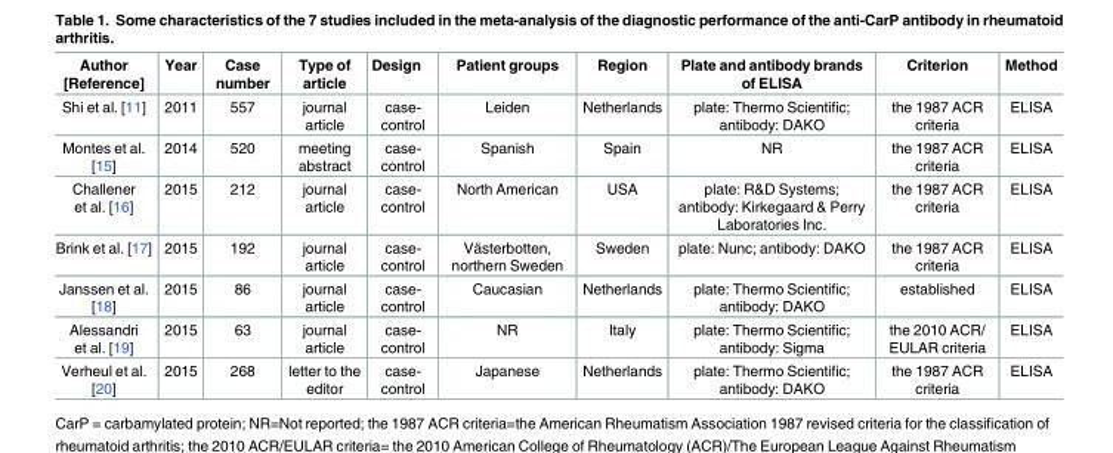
<table><thead><tr><td>Author [Reference]</td><td>Year</td><td>Case number</td><td>Type of article</td><td>Design</td><td>Patient groups</td><td>Region</td><td>Plate and antibody brands of ELISA</td><td>Criterion</td><td>Method</td></tr></thead><tbody><tr><td>Shi et al. [11]</td><td>2011</td><td>557</td><td>journal article</td><td>case- control</td><td>Leiden</td><td>Netherlands</td><td>plate: Thermo Scientific; antibody: DAKO</td><td>the 1987 ACR criteria</td><td>ELISA</td></tr><tr><td>Montes et al. [15]</td><td>2014</td><td>520</td><td>meeting abstract</td><td>case- control</td><td>Spanish</td><td>Spain</td><td>NR</td><td>the 1987 ACR criteria</td><td>ELISA</td></tr><tr><td>Challener et al. [16]</td><td>2015</td><td>212</td><td>journal article</td><td>case- control</td><td>North American</td><td>USA</td><td>plate: R&amp;D Systems; antibody: Kirkegaard &amp; Perry Laboratories Inc.</td><td>the 1987 ACR criteria</td><td>ELISA</td></tr><tr><td>Brink et al. [17]</td><td>2015</td><td>192</td><td>journal article</td><td>case- control</td><td>Västerbotten, northern Sweden</td><td>Sweden</td><td>plate: Nunc; antibody: DAKO</td><td>the 1987 ACR criteria</td><td>ELISA</td></tr><tr><td>Janssen et al. [18]</td><td>2015</td><td>86</td><td>journal article</td><td>case- control</td><td>Caucasian</td><td>Netherlands</td><td>plate: Thermo Scientific; antibody: DAKO</td><td>established</td><td>ELISA</td></tr><tr><td>Alessandri et al. [19]</td><td>2015</td><td>63</td><td>journal article</td><td>case- control</td><td>NR</td><td>Italy</td><td>plate: Thermo Scientific; antibody: Sigma</td><td>the 2010 ACR/ EULAR criteria</td><td>ELISA</td></tr><tr><td>Verheul et al. [20]</td><td>2015</td><td>268</td><td>letter to the editor</td><td>case- control</td><td>Japanese</td><td>Netherlands</td><td>plate: Thermo Scientific; antibody: DAKO</td><td>the 1987 ACR criteria</td><td>ELISA</td></tr></tbody></table>